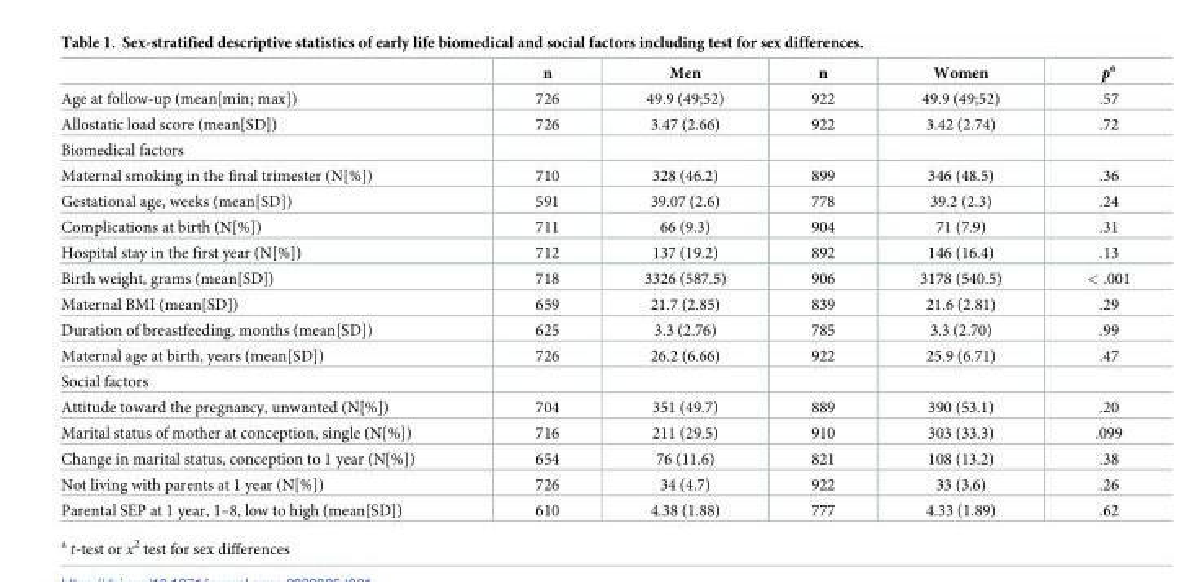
<table><thead><tr><td></td><td>n</td><td>Men</td><td>n</td><td>Women</td><td>p<sup>a</sup></td></tr></thead><tbody><tr><td>Age at follow-up (mean[min; max])</td><td>726</td><td>49.9 (49;52)</td><td>922</td><td>49.9 (49;52)</td><td>.57</td></tr><tr><td>Allostatic load score (mean[SD])</td><td>726</td><td>3.47 (2.66)</td><td>922</td><td>3.42 (2.74)</td><td>.72</td></tr><tr><td colspan="6">Biomedical factors</td></tr><tr><td>Maternal smoking in the final trimester (N[%])</td><td>710</td><td>328 (46.2)</td><td>899</td><td>346 (48.5)</td><td>.36</td></tr><tr><td>Gestational age, weeks (mean[SD])</td><td>591</td><td>39.07 (2.6)</td><td>778</td><td>39.2 (2.3)</td><td>.24</td></tr><tr><td>Complications at birth (N[%])</td><td>711</td><td>66 (9.3)</td><td>904</td><td>71 (7.9)</td><td>.31</td></tr><tr><td>Hospital stay in the first year (N[%])</td><td>712</td><td>137 (19.2)</td><td>892</td><td>146 (16.4)</td><td>.13</td></tr><tr><td>Birth weight, grams (mean[SD])</td><td>718</td><td>3326 (587.5)</td><td>906</td><td>3178 (540.5)</td><td>&lt; .001</td></tr><tr><td>Maternal BMI (mean[SD])</td><td>659</td><td>21.7 (2.85)</td><td>839</td><td>21.6 (2.81)</td><td>.29</td></tr><tr><td>Duration of breastfeeding, months (mean[SD])</td><td>625</td><td>3.3 (2.76)</td><td>785</td><td>3.3 (2.70)</td><td>.99</td></tr><tr><td>Maternal age at birth, years (mean[SD])</td><td>726</td><td>26.2 (6.66)</td><td>922</td><td>25.9 (6.71)</td><td>.47</td></tr><tr><td colspan="6">Social factors</td></tr><tr><td>Attitude toward the pregnancy, unwanted (N[%])</td><td>704</td><td>351 (49.7)</td><td>889</td><td>390 (53.1)</td><td>.20</td></tr><tr><td>Marital status of mother at conception, single (N[%])</td><td>716</td><td>211 (29.5)</td><td>910</td><td>303 (33.3)</td><td>.099</td></tr><tr><td>Change in marital status, conception to 1 year (N[%])</td><td>654</td><td>76 (11.6)</td><td>821</td><td>108 (13.2)</td><td>.38</td></tr><tr><td>Not living with parents at 1 year (N[%])</td><td>726</td><td>34 (4.7)</td><td>922</td><td>33 (3.6)</td><td>.26</td></tr><tr><td>Parental SEP at 1 year, 1–8, low to high (mean[SD])</td><td>610</td><td>4.38 (1.88)</td><td>777</td><td>4.33 (1.89)</td><td>.62</td></tr></tbody></table>